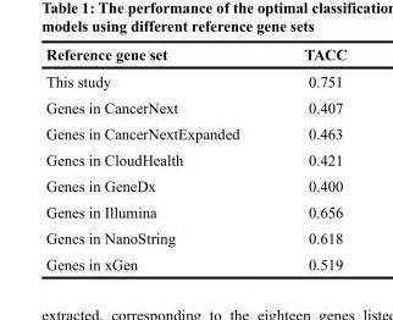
<table><thead><tr><td>Reference gene set</td><td>TACC</td></tr></thead><tbody><tr><td>This study</td><td>0.751</td></tr><tr><td>Genes in CancerNext</td><td>0.407</td></tr><tr><td>Genes in CancerNextExpanded</td><td>0.463</td></tr><tr><td>Genes in CloudHealth</td><td>0.421</td></tr><tr><td>Genes in GeneDx</td><td>0.400</td></tr><tr><td>Genes in Illumina</td><td>0.656</td></tr><tr><td>Genes in NanoString</td><td>0.618</td></tr><tr><td>Genes in xGen</td><td>0.519</td></tr></tbody></table>